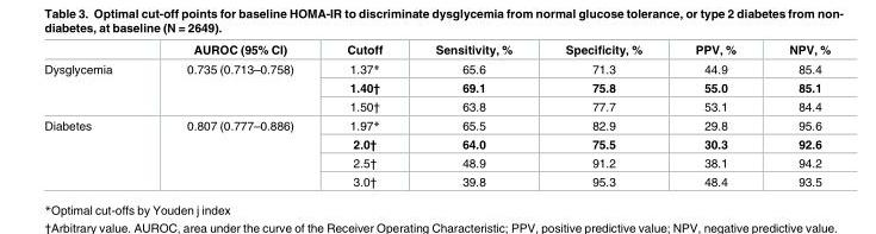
<table><thead><tr><td></td><td>AUROC (95% CI)</td><td>Cutoff</td><td>Sensitivity, %</td><td>Specificity, %</td><td>PPV, %</td><td>NPV, %</td></tr></thead><tbody><tr><td rowspan="3">Dysglycemia</td><td rowspan="3">0.735 (0.713–0.758)</td><td>1.37*</td><td>65.6</td><td>71.3</td><td>44.9</td><td>85.4</td></tr><tr><td>1.40†</td><td>69.1</td><td>75.8</td><td>55.0</td><td>85.1</td></tr><tr><td>1.50†</td><td>63.8</td><td>77.7</td><td>53.1</td><td>84.4</td></tr><tr><td rowspan="4">Diabetes</td><td rowspan="4">0.807 (0.777–0.886)</td><td>1.97*</td><td>65.5</td><td>82.9</td><td>29.8</td><td>95.6</td></tr><tr><td>2.0†</td><td>64.0</td><td>75.5</td><td>30.3</td><td>92.6</td></tr><tr><td>2.5†</td><td>48.9</td><td>91.2</td><td>38.1</td><td>94.2</td></tr><tr><td>3.0†</td><td>39.8</td><td>95.3</td><td>48.4</td><td>93.5</td></tr></tbody></table>